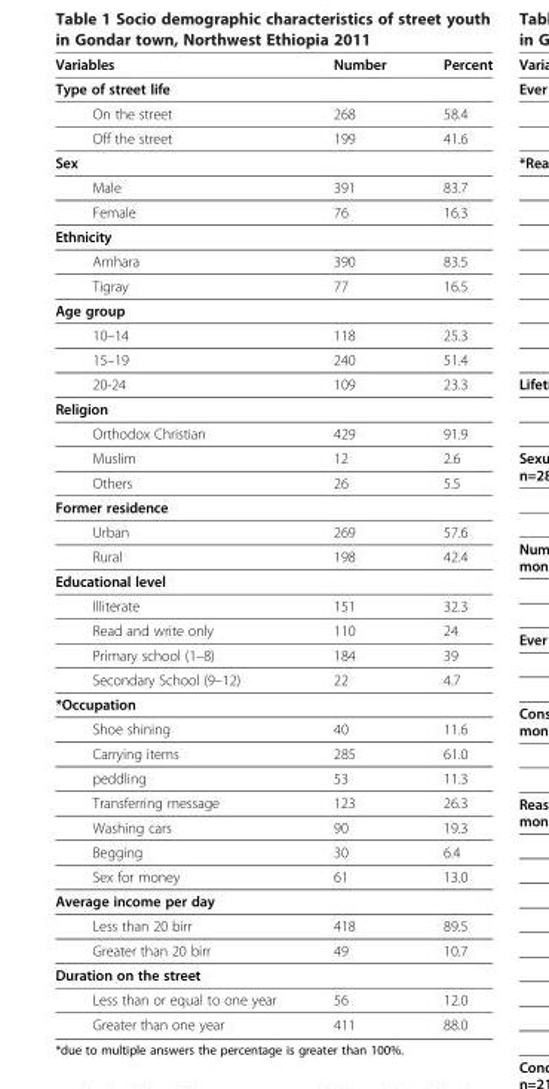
<table><thead><tr><td>Variables</td><td>Number</td><td>Percent</td></tr></thead><tbody><tr><td colspan="3">Type of street life</td></tr><tr><td>On the street</td><td>268</td><td>58.4</td></tr><tr><td>Off the street</td><td>199</td><td>41.6</td></tr><tr><td colspan="3">Sex</td></tr><tr><td>Male</td><td>391</td><td>83.7</td></tr><tr><td>Female</td><td>76</td><td>16.3</td></tr><tr><td colspan="3">Ethnicity</td></tr><tr><td>Amhara</td><td>390</td><td>83.5</td></tr><tr><td>Tigray</td><td>77</td><td>16.5</td></tr><tr><td colspan="3">Age group</td></tr><tr><td>10–14</td><td>118</td><td>25.3</td></tr><tr><td>15–19</td><td>240</td><td>51.4</td></tr><tr><td>20-24</td><td>109</td><td>23.3</td></tr><tr><td colspan="3">Religion</td></tr><tr><td>Orthodox Christian</td><td>429</td><td>91.9</td></tr><tr><td>Muslim</td><td>12</td><td>2.6</td></tr><tr><td>Others</td><td>26</td><td>5.5</td></tr><tr><td colspan="3">Former residence</td></tr><tr><td>Urban</td><td>269</td><td>57.6</td></tr><tr><td>Rural</td><td>198</td><td>42.4</td></tr><tr><td colspan="3">Educational level</td></tr><tr><td>Illiterate</td><td>151</td><td>32.3</td></tr><tr><td>Read and write only</td><td>110</td><td>24</td></tr><tr><td>Primary school (1–8)</td><td>184</td><td>39</td></tr><tr><td>Secondary School (9–12)</td><td>22</td><td>4.7</td></tr><tr><td colspan="3">*Occupation</td></tr><tr><td>Shoe shining</td><td>40</td><td>11.6</td></tr><tr><td>Carrying items</td><td>285</td><td>61.0</td></tr><tr><td>peddling</td><td>53</td><td>11.3</td></tr><tr><td>Transferring message</td><td>123</td><td>26.3</td></tr><tr><td>Washing cars</td><td>90</td><td>19.3</td></tr><tr><td>Begging</td><td>30</td><td>6.4</td></tr><tr><td>Sex for money</td><td>61</td><td>13.0</td></tr><tr><td colspan="3">Average income per day</td></tr><tr><td>Less than 20 birr</td><td>418</td><td>89.5</td></tr><tr><td>Greater than 20 birr</td><td>49</td><td>10.7</td></tr><tr><td colspan="3">Duration on the street</td></tr><tr><td>Less than or equal to one year</td><td>56</td><td>12.0</td></tr><tr><td>Greater than one year</td><td>411</td><td>88.0</td></tr></tbody></table>